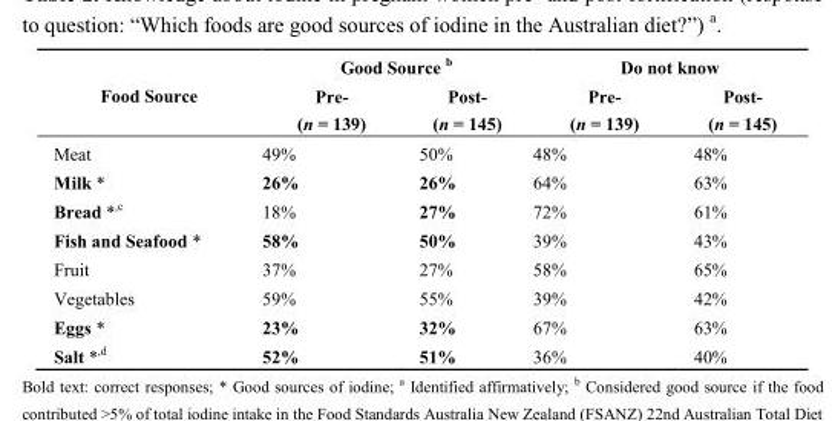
<table><thead><tr><td rowspan="2">Food Source</td><td colspan="2">Good Source <sup>b</sup></td><td colspan="2">Do not know</td></tr><tr><td>Pre- (n = 139)</td><td>Post- (n = 145)</td><td>Pre- (n = 139)</td><td>Post- (n = 145)</td></tr></thead><tbody><tr><td>Meat</td><td>49%</td><td>50%</td><td>48%</td><td>48%</td></tr><tr><td>Milk *</td><td>26%</td><td>26%</td><td>64%</td><td>63%</td></tr><tr><td>Bread *<sup>,c</sup></td><td>18%</td><td>27%</td><td>72%</td><td>61%</td></tr><tr><td>Fish and Seafood *</td><td>58%</td><td>50%</td><td>39%</td><td>43%</td></tr><tr><td>Fruit</td><td>37%</td><td>27%</td><td>58%</td><td>65%</td></tr><tr><td>Vegetables</td><td>59%</td><td>55%</td><td>39%</td><td>42%</td></tr><tr><td>Eggs *</td><td>23%</td><td>32%</td><td>67%</td><td>63%</td></tr><tr><td>Salt *<sup>,d</sup></td><td>52%</td><td>51%</td><td>36%</td><td>40%</td></tr></tbody></table>